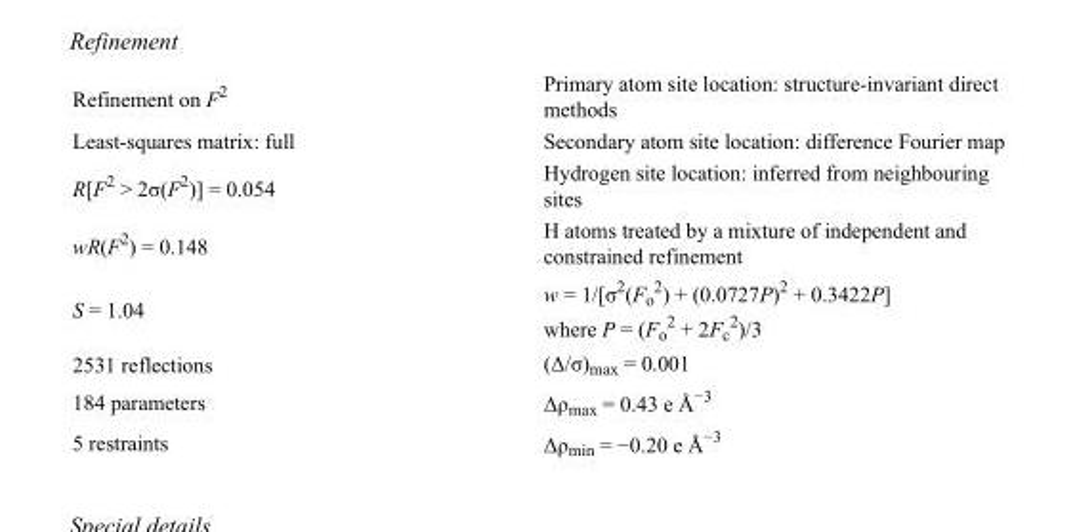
<table><tbody><tr><td>Refinement on F<sup>2</sup></td><td>Primary atom site location: structure-invariant direct methods</td></tr><tr><td>Least-squares matrix: full</td><td>Secondary atom site location: difference Fourier map</td></tr><tr><td>R[F<sup>2</sup> &gt; 2σ(F<sup>2</sup>)] = 0.054</td><td>Hydrogen site location: inferred from neighbouring sites</td></tr><tr><td>wR(F<sup>2</sup>) = 0.148</td><td>H atoms treated by a mixture of independent and constrained refinement</td></tr><tr><td>S = 1.04</td><td>w = 1/[σ<sup>2</sup>(F<sub>o</sub> <sup>2</sup>) + (0.0727P)<sup>2</sup> + 0.3422P] where P = (F<sub>o</sub> <sup>2</sup> + 2F<sub>c</sub> <sup>2</sup>)/3</td></tr><tr><td>2531 reflections</td><td>(Δ/σ)<sub>max</sub> = 0.001</td></tr><tr><td>184 parameters</td><td>Δρ<sub>max</sub> = 0.43 e Å<sup>−3</sup></td></tr><tr><td>5 restraints</td><td>Δρ<sub>min</sub> = −0.20 e Å<sup>−3</sup></td></tr></tbody></table>